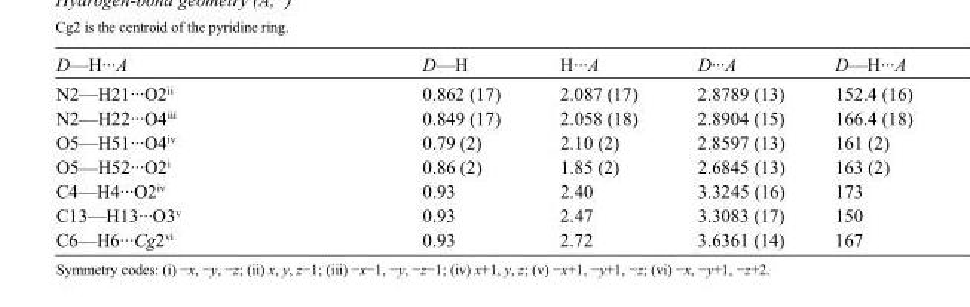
<table><tbody><tr><td>D—H···A</td><td>D—H</td><td>H···A</td><td>D···A</td><td>D—H···A</td></tr><tr><td>N2—H21···O2<sup>ii</sup></td><td>0.862 (17)</td><td>2.087 (17)</td><td>2.8789 (13)</td><td>152.4 (16)</td></tr><tr><td>N2—H22···O4<sup>iii</sup></td><td>0.849 (17)</td><td>2.058 (18)</td><td>2.8904 (15)</td><td>166.4 (18)</td></tr><tr><td>O5—H51···O4<sup>iv</sup></td><td>0.79 (2)</td><td>2.10 (2)</td><td>2.8597 (13)</td><td>161 (2)</td></tr><tr><td>O5—H52···O2<sup>i</sup></td><td>0.86 (2)</td><td>1.85 (2)</td><td>2.6845 (13)</td><td>163 (2)</td></tr><tr><td>C4—H4···O2<sup>iv</sup></td><td>0.93</td><td>2.40</td><td>3.3245 (16)</td><td>173</td></tr><tr><td>C13—H13···O3<sup>v</sup></td><td>0.93</td><td>2.47</td><td>3.3083 (17)</td><td>150</td></tr><tr><td>C6—H6···Cg2<sup>vi</sup></td><td>0.93</td><td>2.72</td><td>3.6361 (14)</td><td>167</td></tr></tbody></table>